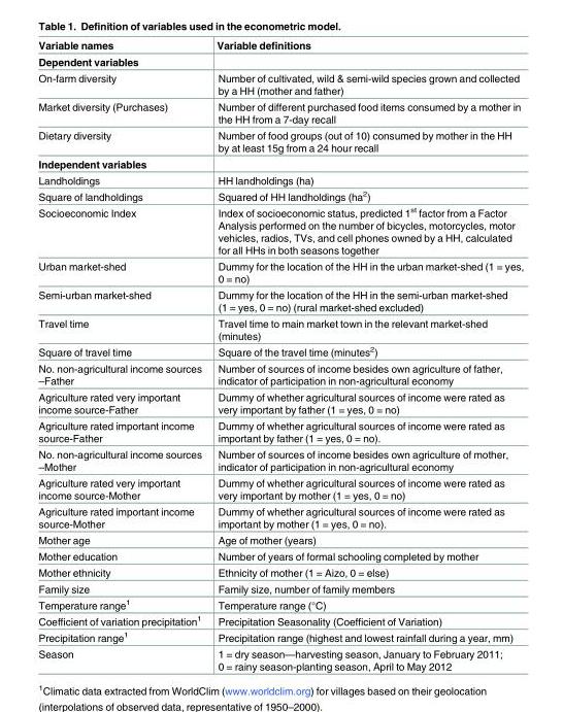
<table><thead><tr><td>Variable names</td><td>Variable definitions</td></tr></thead><tbody><tr><td colspan="2">Dependent variables</td></tr><tr><td>On-farm diversity</td><td>Number of cultivated, wild &amp; semi-wild species grown and collected by a HH (mother and father)</td></tr><tr><td>Market diversity (Purchases)</td><td>Number of different purchased food items consumed by a mother in the HH from a 7-day recall</td></tr><tr><td>Dietary diversity</td><td>Number of food groups (out of 10) consumed by mother in the HH by at least 15g from a 24 hour recall</td></tr><tr><td colspan="2">Independent variables</td></tr><tr><td>Landholdings</td><td>HH landholdings (ha)</td></tr><tr><td>Square of landholdings</td><td>Squared of HH landholdings (ha<sup>2</sup>)</td></tr><tr><td>Socioeconomic Index</td><td>Index of socioeconomic status, predicted 1<sup>st</sup> factor from a Factor Analysis performed on the number of bicycles, motorcycles, motor vehicles, radios, TVs, and cell phones owned by a HH, calculated for all HHs in both seasons together</td></tr><tr><td>Urban market-shed</td><td>Dummy for the location of the HH in the urban market-shed (1 = yes, 0 = no)</td></tr><tr><td>Semi-urban market-shed</td><td>Dummy for the location of the HH in the semi-urban market-shed (1 = yes, 0 = no) (rural market-shed excluded)</td></tr><tr><td>Travel time</td><td>Travel time to main market town in the relevant market-shed (minutes)</td></tr><tr><td>Square of travel time</td><td>Square of the travel time (minutes<sup>2</sup>)</td></tr><tr><td>No. non-agricultural income sources –Father</td><td>Number of sources of income besides own agriculture of father, indicator of participation in non-agricultural economy</td></tr><tr><td>Agriculture rated very important income source-Father</td><td>Dummy of whether agricultural sources of income were rated as very important by father (1 = yes, 0 = no)</td></tr><tr><td>Agriculture rated important income source-Father</td><td>Dummy of whether agricultural sources of income were rated as important by father (1 = yes, 0 = no).</td></tr><tr><td>No. non-agricultural income sources –Mother</td><td>Number of sources of income besides own agriculture of mother, indicator of participation in non-agricultural economy</td></tr><tr><td>Agriculture rated very important income source-Mother</td><td>Dummy of whether agricultural sources of income were rated as very important by mother (1 = yes, 0 = no)</td></tr><tr><td>Agriculture rated important income source-Mother</td><td>Dummy of whether agricultural sources of income were rated as important by mother (1 = yes, 0 = no).</td></tr><tr><td>Mother age</td><td>Age of mother (years)</td></tr><tr><td>Mother education</td><td>Number of years of formal schooling completed by mother</td></tr><tr><td>Mother ethnicity</td><td>Ethnicity of mother (1 = Aizo, 0 = else)</td></tr><tr><td>Family size</td><td>Family size, number of family members</td></tr><tr><td>Temperature range<sup>1</sup></td><td>Temperature range (°C)</td></tr><tr><td>Coefficient of variation precipitation<sup>1</sup></td><td>Precipitation Seasonality (Coefficient of Variation)</td></tr><tr><td>Precipitation range<sup>1</sup></td><td>Precipitation range (highest and lowest rainfall during a year, mm)</td></tr><tr><td>Season</td><td>1 = dry season—harvesting season, January to February 2011; 0 = rainy season-planting season, April to May 2012</td></tr></tbody></table>